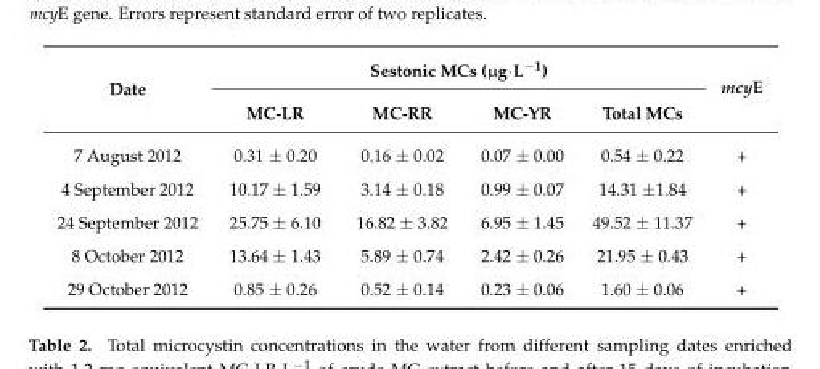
<table><thead><tr><td rowspan="2">Date</td><td colspan="4">Sestonic MCs (µg·L<sup>−1</sup>)</td><td rowspan="2">mcyE</td></tr><tr><td>MC-LR</td><td>MC-RR</td><td>MC-YR</td><td>Total MCs</td></tr></thead><tbody><tr><td>7 August 2012</td><td>0.31 ± 0.20</td><td>0.16 ± 0.02</td><td>0.07 ± 0.00</td><td>0.54 ± 0.22</td><td>+</td></tr><tr><td>4 September 2012</td><td>10.17 ± 1.59</td><td>3.14 ± 0.18</td><td>0.99 ± 0.07</td><td>14.31 ±1.84</td><td>+</td></tr><tr><td>24 September 2012</td><td>25.75 ± 6.10</td><td>16.82 ± 3.82</td><td>6.95 ± 1.45</td><td>49.52 ± 11.37</td><td>+</td></tr><tr><td>8 October 2012</td><td>13.64 ± 1.43</td><td>5.89 ± 0.74</td><td>2.42 ± 0.26</td><td>21.95 ± 0.43</td><td>+</td></tr><tr><td>29 October 2012</td><td>0.85 ± 0.26</td><td>0.52 ± 0.14</td><td>0.23 ± 0.06</td><td>1.60 ± 0.06</td><td>+</td></tr></tbody></table>